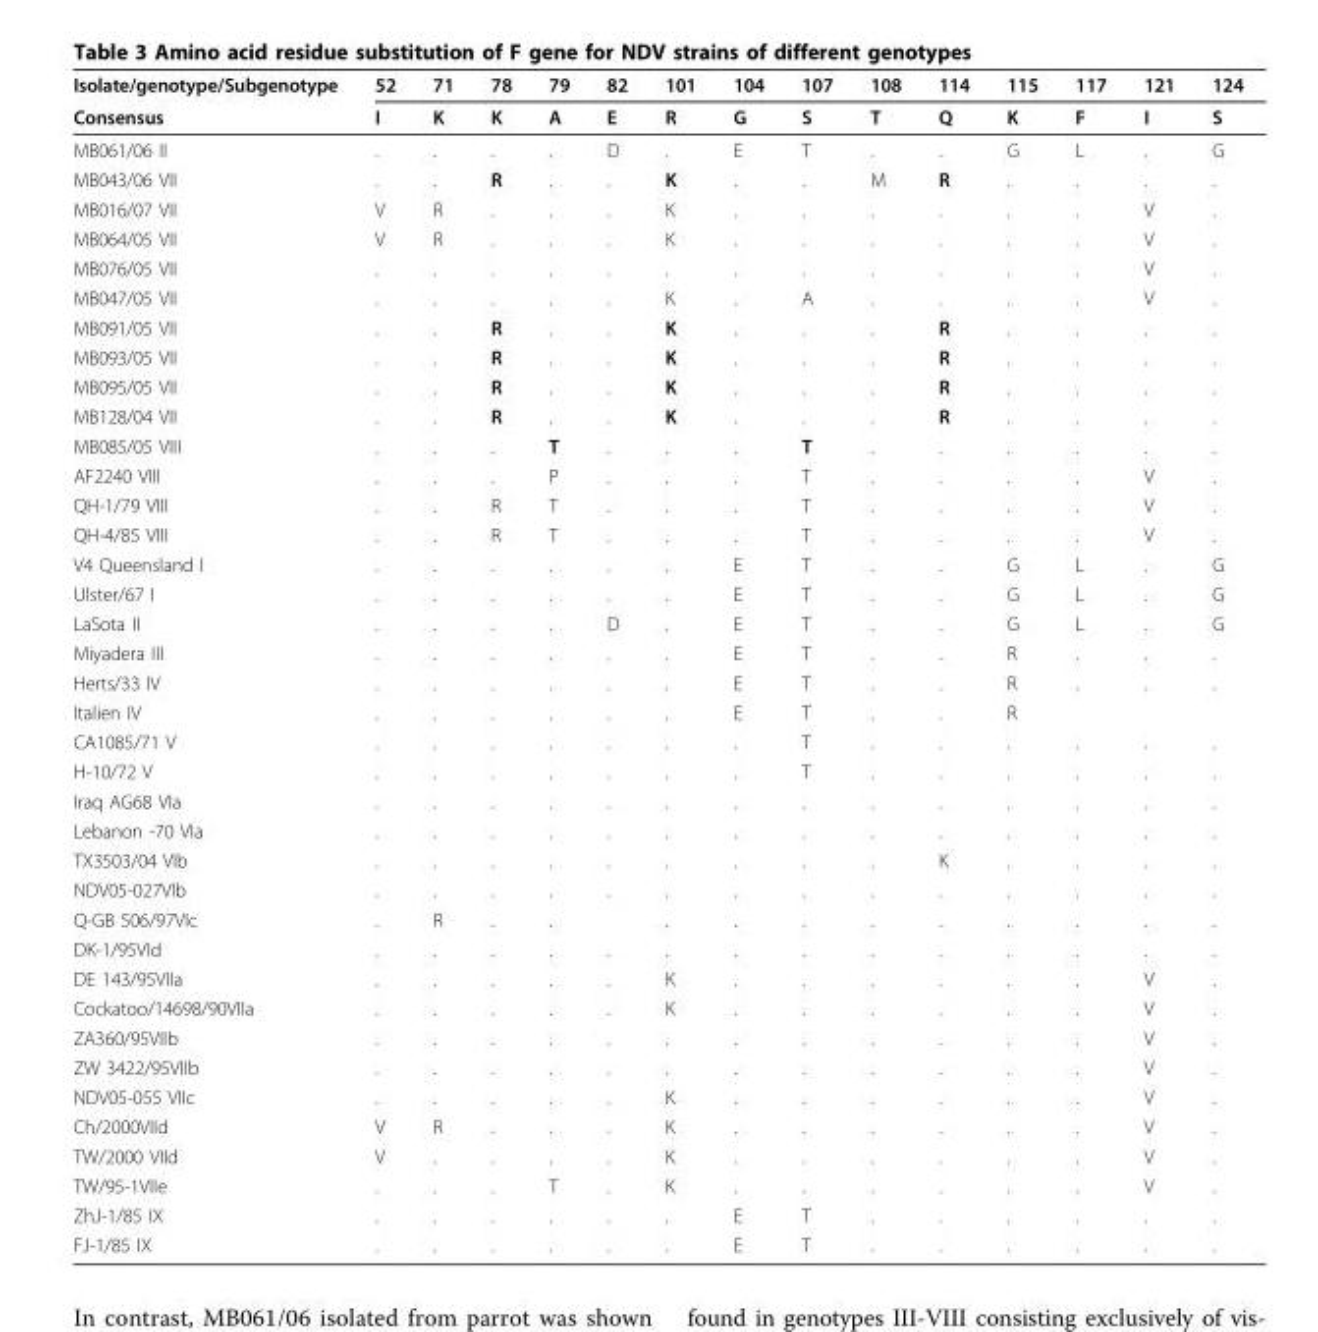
<table><thead><tr><td rowspan="2">Isolate/genotype/Subgenotype Consensus</td><td rowspan="2">52 I</td><td rowspan="2">71 K</td><td rowspan="2">78 K</td><td rowspan="2">79 A</td><td rowspan="2">82 E</td><td rowspan="2">101 R</td><td rowspan="2">104 G</td><td rowspan="2">107 S</td><td rowspan="2">108 T</td><td rowspan="2">114 Q</td><td rowspan="2">115 K</td><td rowspan="2">117 F</td><td rowspan="2">121 I</td><td rowspan="2">124 S</td></tr><tr></tr></thead><tbody><tr><td>MB061/06 II</td><td>.</td><td>.</td><td>.</td><td>.</td><td>D</td><td>.</td><td>E</td><td>T</td><td>.</td><td>.</td><td>G</td><td>L</td><td>.</td><td>G</td></tr><tr><td>MB043/06 VII</td><td>.</td><td>.</td><td>R</td><td>.</td><td>.</td><td>K</td><td>.</td><td>.</td><td>M</td><td>R</td><td>.</td><td>.</td><td>.</td><td>.</td></tr><tr><td>MB016/07 VII</td><td>V</td><td>R</td><td>.</td><td>.</td><td>.</td><td>K</td><td>.</td><td>.</td><td>.</td><td>.</td><td>.</td><td>.</td><td>V</td><td>.</td></tr><tr><td>MB064/05 VII</td><td>V</td><td>R</td><td>.</td><td>.</td><td>.</td><td>K</td><td>.</td><td>.</td><td>.</td><td>.</td><td>.</td><td>.</td><td>V</td><td>.</td></tr><tr><td>MB076/05 VII</td><td>.</td><td>.</td><td>.</td><td>.</td><td>.</td><td>.</td><td>.</td><td>.</td><td>.</td><td>.</td><td>.</td><td>.</td><td>V</td><td>.</td></tr><tr><td>MB047/05 VII</td><td>.</td><td>.</td><td>.</td><td>.</td><td>.</td><td>K</td><td>.</td><td>A</td><td>.</td><td>.</td><td>.</td><td>.</td><td>V</td><td>.</td></tr><tr><td>MB091/05 VII</td><td>.</td><td>.</td><td>R</td><td>.</td><td>.</td><td>K</td><td>.</td><td>.</td><td>.</td><td>R</td><td>.</td><td>.</td><td>.</td><td>.</td></tr><tr><td>MB093/05 VII</td><td>.</td><td>.</td><td>R</td><td>.</td><td>.</td><td>K</td><td>.</td><td>.</td><td>.</td><td>R</td><td>.</td><td>.</td><td>.</td><td>.</td></tr><tr><td>MB095/05 VII</td><td>.</td><td>.</td><td>R</td><td>.</td><td>.</td><td>K</td><td>.</td><td>.</td><td>.</td><td>R</td><td>.</td><td>.</td><td>.</td><td>.</td></tr><tr><td>MB128/04 VII</td><td>.</td><td>.</td><td>R</td><td>.</td><td>.</td><td>K</td><td>.</td><td>.</td><td>.</td><td>R</td><td>.</td><td>.</td><td>.</td><td>.</td></tr><tr><td>MB085/05 VIII</td><td>.</td><td>.</td><td>.</td><td>T</td><td>.</td><td>.</td><td>.</td><td>T</td><td>.</td><td>.</td><td>.</td><td>.</td><td>.</td><td>.</td></tr><tr><td>AF2240 VIII</td><td>.</td><td>.</td><td>.</td><td>P</td><td>.</td><td>.</td><td>.</td><td>T</td><td>.</td><td>.</td><td>.</td><td>.</td><td>V</td><td>.</td></tr><tr><td>QH-1/79 VIII</td><td>.</td><td>.</td><td>R</td><td>T</td><td>.</td><td>.</td><td>.</td><td>T</td><td>.</td><td>.</td><td>.</td><td>.</td><td>V</td><td>.</td></tr><tr><td>QH-4/85 VIII</td><td>.</td><td>.</td><td>R</td><td>T</td><td>.</td><td>.</td><td>.</td><td>T</td><td>.</td><td>.</td><td>.</td><td>.</td><td>V</td><td>.</td></tr><tr><td>V4 Queensland I</td><td>.</td><td>.</td><td>.</td><td>.</td><td>.</td><td>.</td><td>E</td><td>T</td><td>.</td><td>.</td><td>G</td><td>L</td><td>.</td><td>G</td></tr><tr><td>Ulster/67 I</td><td>.</td><td>.</td><td>.</td><td>.</td><td>.</td><td>.</td><td>E</td><td>T</td><td>.</td><td>.</td><td>G</td><td>L</td><td>.</td><td>G</td></tr><tr><td>LaSota II</td><td>.</td><td>.</td><td>.</td><td>.</td><td>D</td><td>.</td><td>E</td><td>T</td><td>.</td><td>.</td><td>G</td><td>L</td><td>.</td><td>G</td></tr><tr><td>Miyadera III</td><td>.</td><td>.</td><td>.</td><td>.</td><td>.</td><td>.</td><td>E</td><td>T</td><td>.</td><td>.</td><td>R</td><td>.</td><td>.</td><td>.</td></tr><tr><td>Herts/33 IV</td><td>.</td><td>.</td><td>.</td><td>.</td><td>.</td><td>.</td><td>E</td><td>T</td><td>.</td><td>.</td><td>R</td><td>.</td><td>.</td><td>.</td></tr><tr><td>Italien IV</td><td>.</td><td>.</td><td>.</td><td>.</td><td>.</td><td>.</td><td>E</td><td>T</td><td>.</td><td>.</td><td>R</td><td></td><td></td><td></td></tr><tr><td>CA1085/71 V</td><td>.</td><td>.</td><td>.</td><td>.</td><td>.</td><td>.</td><td>.</td><td>T</td><td>.</td><td>.</td><td>.</td><td>.</td><td>.</td><td>.</td></tr><tr><td>H-10/72 V</td><td>.</td><td>.</td><td>.</td><td>.</td><td>.</td><td>.</td><td>.</td><td>T</td><td>.</td><td>.</td><td>.</td><td>.</td><td>.</td><td>.</td></tr><tr><td>Iraq AG68 VIa</td><td>.</td><td>.</td><td>.</td><td>.</td><td>.</td><td>.</td><td>.</td><td>.</td><td>.</td><td>.</td><td>.</td><td>.</td><td>.</td><td>.</td></tr><tr><td>Lebanon -70 VIa</td><td>.</td><td>.</td><td>.</td><td>.</td><td>.</td><td>.</td><td>.</td><td>.</td><td>.</td><td>.</td><td>.</td><td>.</td><td>.</td><td>.</td></tr><tr><td>TX3503/04 VIb</td><td>.</td><td>.</td><td>.</td><td>.</td><td>.</td><td>.</td><td>.</td><td>.</td><td>.</td><td>K</td><td>.</td><td>.</td><td>.</td><td>.</td></tr><tr><td>NDV05-027VIb</td><td>.</td><td>.</td><td>.</td><td>.</td><td>.</td><td>.</td><td>.</td><td>.</td><td>.</td><td>.</td><td>.</td><td>.</td><td>.</td><td>.</td></tr><tr><td>Q-GB 506/97VIc</td><td>.</td><td>R</td><td>.</td><td>.</td><td></td><td>.</td><td>.</td><td>.</td><td>.</td><td>.</td><td>.</td><td>.</td><td>.</td><td>.</td></tr><tr><td>DK-1/95VId</td><td>.</td><td>.</td><td>.</td><td>.</td><td>.</td><td>.</td><td>.</td><td>.</td><td>.</td><td>.</td><td>.</td><td>.</td><td>.</td><td>.</td></tr><tr><td>DE 143/95VIIa</td><td>.</td><td>.</td><td>.</td><td>.</td><td>.</td><td>K</td><td>.</td><td>.</td><td>.</td><td>.</td><td>.</td><td>.</td><td>V</td><td>.</td></tr><tr><td>Cockatoo/14698/90VIIa</td><td>.</td><td>.</td><td>.</td><td>.</td><td>.</td><td>K</td><td>.</td><td>.</td><td>.</td><td>.</td><td>.</td><td>.</td><td>V</td><td>.</td></tr><tr><td>ZA360/95VIIb</td><td>.</td><td>.</td><td>.</td><td>.</td><td>.</td><td>.</td><td>.</td><td>.</td><td>.</td><td>.</td><td>.</td><td>.</td><td>V</td><td>.</td></tr><tr><td>ZW 3422/95VIIb</td><td>.</td><td>.</td><td>.</td><td>.</td><td>.</td><td>.</td><td>.</td><td>.</td><td>.</td><td>.</td><td>.</td><td>.</td><td>V</td><td>.</td></tr><tr><td>NDV05-055 VIIc</td><td>.</td><td>.</td><td>.</td><td>.</td><td>.</td><td>K</td><td>.</td><td>.</td><td>.</td><td>.</td><td>.</td><td>.</td><td>V</td><td>.</td></tr><tr><td>Ch/2000VIId</td><td>V</td><td>R</td><td>.</td><td>.</td><td>.</td><td>K</td><td>.</td><td>.</td><td>.</td><td>.</td><td>.</td><td>.</td><td>V</td><td>.</td></tr><tr><td>TW/2000 VIId</td><td>V</td><td>.</td><td>.</td><td>.</td><td>.</td><td>K</td><td>.</td><td>.</td><td>.</td><td>.</td><td>.</td><td>.</td><td>V</td><td>.</td></tr><tr><td>TW/95-1VIIe</td><td>.</td><td>.</td><td>.</td><td>T</td><td>.</td><td>K</td><td>.</td><td>.</td><td>.</td><td>.</td><td>.</td><td>.</td><td>V</td><td>.</td></tr><tr><td>ZhJ-1/85 IX</td><td>.</td><td>.</td><td>.</td><td>.</td><td>.</td><td>.</td><td>E</td><td>T</td><td>.</td><td>.</td><td>.</td><td>.</td><td>.</td><td>.</td></tr><tr><td>FJ-1/85 IX</td><td>.</td><td>.</td><td>.</td><td>.</td><td>.</td><td>.</td><td>E</td><td>T</td><td>.</td><td>.</td><td>.</td><td>.</td><td>.</td><td>.</td></tr></tbody></table>